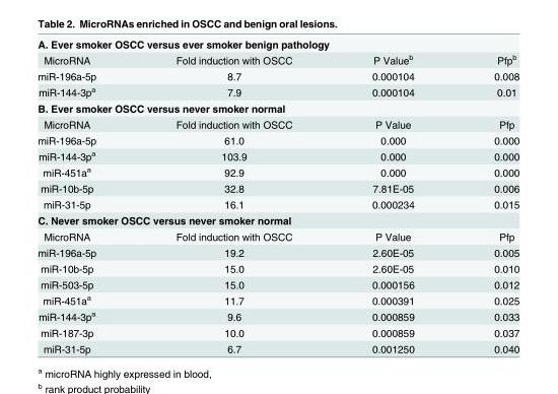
<table><tbody><tr><td colspan="4">A. Ever smoker OSCC versus ever smoker benign pathology</td></tr><tr><td>MicroRNA</td><td>Fold induction with OSCC</td><td>P Value<sup>b</sup></td><td>Pfp<sup>b</sup></td></tr><tr><td>miR-196a-5p</td><td>8.7</td><td>0.000104</td><td>0.008</td></tr><tr><td>miR-144-3p<sup>a</sup></td><td>7.9</td><td>0.000104</td><td>0.01</td></tr><tr><td colspan="4">B. Ever smoker OSCC versus never smoker normal</td></tr><tr><td>MicroRNA</td><td>Fold induction with OSCC</td><td>P Value</td><td>Pfp</td></tr><tr><td>miR-196a-5p</td><td>61.0</td><td>0.000</td><td>0.000</td></tr><tr><td>miR-144-3p<sup>a</sup></td><td>103.9</td><td>0.000</td><td>0.000</td></tr><tr><td>miR-451a<sup>a</sup></td><td>92.9</td><td>0.000</td><td>0.000</td></tr><tr><td>miR-10b-5p</td><td>32.8</td><td>7.81E-05</td><td>0.006</td></tr><tr><td>miR-31-5p</td><td>16.1</td><td>0.000234</td><td>0.015</td></tr><tr><td colspan="4">C. Never smoker OSCC versus never smoker normal</td></tr><tr><td>MicroRNA</td><td>Fold induction with OSCC</td><td>P Value</td><td>Pfp</td></tr><tr><td>miR-196a-5p</td><td>19.2</td><td>2.60E-05</td><td>0.005</td></tr><tr><td>miR-10b-5p</td><td>15.0</td><td>2.60E-05</td><td>0.010</td></tr><tr><td>miR-503-5p</td><td>15.0</td><td>0.000156</td><td>0.012</td></tr><tr><td>miR-451a<sup>a</sup></td><td>11.7</td><td>0.000391</td><td>0.025</td></tr><tr><td>miR-144-3p<sup>a</sup></td><td>9.6</td><td>0.000859</td><td>0.033</td></tr><tr><td>miR-187-3p</td><td>10.0</td><td>0.000859</td><td>0.037</td></tr><tr><td>miR-31-5p</td><td>6.7</td><td>0.001250</td><td>0.040</td></tr></tbody></table>